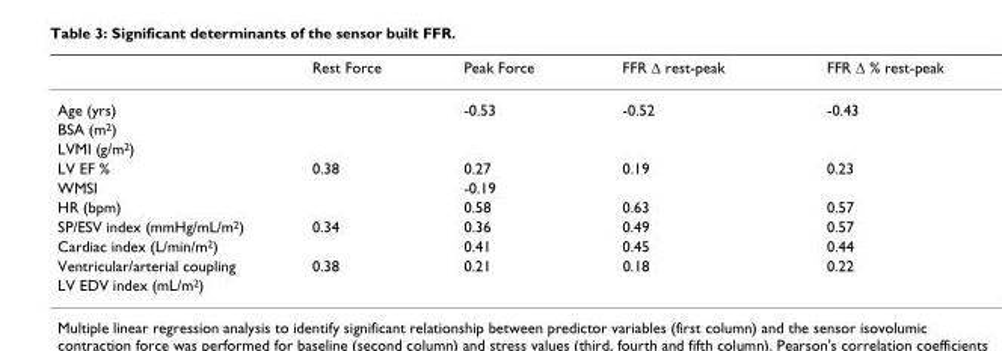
<table><thead><tr><td></td><td>Rest Force</td><td>Peak Force</td><td>FFR Δ rest-peak</td><td>FFR Δ % rest-peak</td></tr></thead><tbody><tr><td>Age (yrs)</td><td></td><td>-0.53</td><td>-0.52</td><td>-0.43</td></tr><tr><td colspan="5">BSA (m<sup>2</sup>)</td></tr><tr><td colspan="5">LVMI (g/m<sup>2</sup>)</td></tr><tr><td>LV EF %</td><td>0.38</td><td>0.27</td><td>0.19</td><td>0.23</td></tr><tr><td>WMSI</td><td></td><td>-0.19</td><td></td><td></td></tr><tr><td>HR (bpm)</td><td></td><td>0.58</td><td>0.63</td><td>0.57</td></tr><tr><td>SP/ESV index (mmHg/mL/m<sup>2</sup>)</td><td>0.34</td><td>0.36</td><td>0.49</td><td>0.57</td></tr><tr><td>Cardiac index (L/min/m<sup>2</sup>)</td><td></td><td>0.41</td><td>0.45</td><td>0.44</td></tr><tr><td>Ventricular/arterial coupling</td><td>0.38</td><td>0.21</td><td>0.18</td><td>0.22</td></tr><tr><td>LV EDV index (mL/m<sup>2</sup>)</td><td></td><td></td><td></td><td></td></tr></tbody></table>